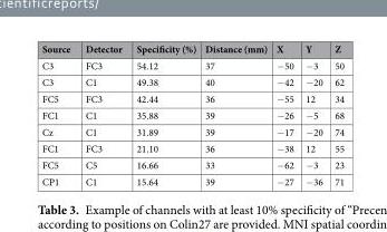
<table><thead><tr><td>Source</td><td>Detector</td><td>Specificity (%)</td><td>Distance (mm)</td><td>X</td><td>Y</td><td>Z</td></tr></thead><tbody><tr><td>C3</td><td>FC3</td><td>54.12</td><td>37</td><td>−50</td><td>−3</td><td>50</td></tr><tr><td>C3</td><td>C1</td><td>49.38</td><td>40</td><td>−42</td><td>−20</td><td>62</td></tr><tr><td>FC5</td><td>FC3</td><td>42.44</td><td>36</td><td>−55</td><td>12</td><td>34</td></tr><tr><td>FC1</td><td>C1</td><td>35.88</td><td>39</td><td>−26</td><td>−5</td><td>68</td></tr><tr><td>Cz</td><td>C1</td><td>31.89</td><td>39</td><td>−17</td><td>−20</td><td>74</td></tr><tr><td>FC1</td><td>FC3</td><td>21.10</td><td>36</td><td>−38</td><td>12</td><td>55</td></tr><tr><td>FC5</td><td>C5</td><td>16.66</td><td>33</td><td>−62</td><td>−3</td><td>23</td></tr><tr><td>CP1</td><td>C1</td><td>15.64</td><td>39</td><td>−27</td><td>−36</td><td>71</td></tr></tbody></table>